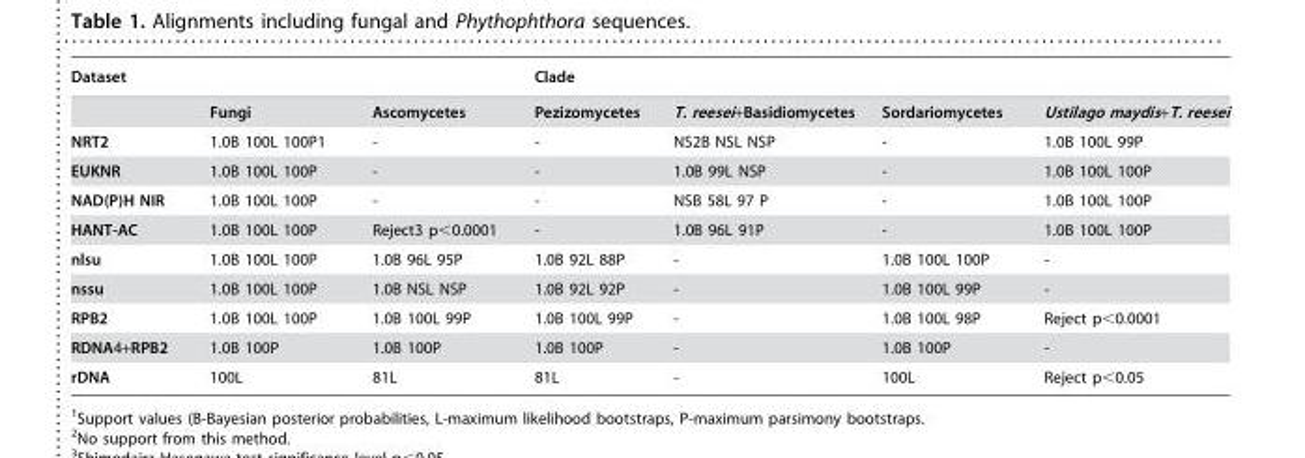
<table><thead><tr><td colspan="3">Dataset</td><td colspan="4">Clade</td></tr><tr><td></td><td>Fungi</td><td>Ascomycetes</td><td>Pezizomycetes</td><td>T. reesei+Basidiomycetes</td><td>Sordariomycetes</td><td>Ustilago maydis+T. reesei</td></tr></thead><tbody><tr><td>NRT2</td><td>1.0B 100L 100P1</td><td>-</td><td>-</td><td>NS2B NSL NSP</td><td>-</td><td>1.0B 100L 99P</td></tr><tr><td>EUKNR</td><td>1.0B 100L 100P</td><td>-</td><td>-</td><td>1.0B 99L NSP</td><td>-</td><td>1.0B 100L 100P</td></tr><tr><td>NAD(P)H NIR</td><td>1.0B 100L 100P</td><td>-</td><td>-</td><td>NSB 58L 97 P</td><td>-</td><td>1.0B 100L 100P</td></tr><tr><td>HANT-AC</td><td>1.0B 100L 100P</td><td>Reject3 p&lt;0.0001</td><td>-</td><td>1.0B 96L 91P</td><td>-</td><td>1.0B 100L 100P</td></tr><tr><td>nlsu</td><td>1.0B 100L 100P</td><td>1.0B 96L 95P</td><td>1.0B 92L 88P</td><td>-</td><td>1.0B 100L 100P</td><td>-</td></tr><tr><td>nssu</td><td>1.0B 100L 100P</td><td>1.0B NSL NSP</td><td>1.0B 92L 92P</td><td>-</td><td>1.0B 100L 99P</td><td>-</td></tr><tr><td>RPB2</td><td>1.0B 100L 100P</td><td>1.0B 100L 99P</td><td>1.0B 100L 99P</td><td>-</td><td>1.0B 100L 98P</td><td>Reject p&lt;0.0001</td></tr><tr><td>RDNA4+RPB2</td><td>1.0B 100P</td><td>1.0B 100P</td><td>1.0B 100P</td><td>-</td><td>1.0B 100P</td><td>-</td></tr><tr><td>rDNA</td><td>100L</td><td>81L</td><td>81L</td><td>-</td><td>100L</td><td>Reject p&lt;0.05</td></tr></tbody></table>